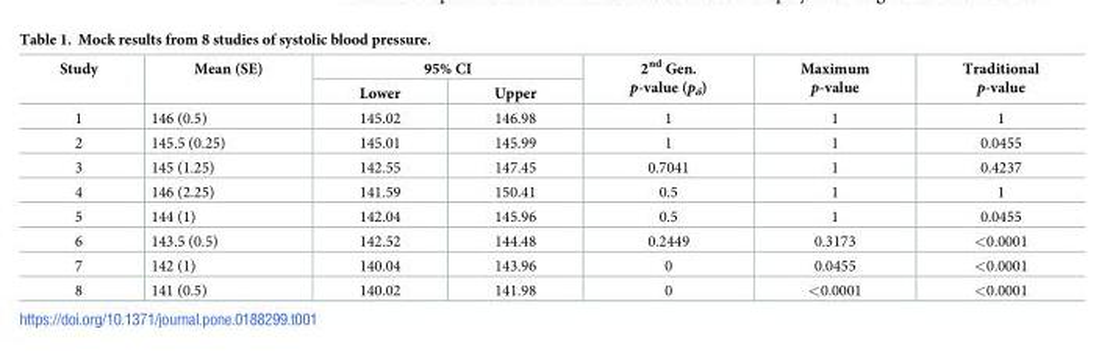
<table><thead><tr><td rowspan="2">Study</td><td rowspan="2">Mean (SE)</td><td colspan="2">95% CI</td><td rowspan="2">2<sup>nd</sup> Gen. p-value (p<sub>δ</sub>)</td><td rowspan="2">Maximum p-value</td><td rowspan="2">Traditional p-value</td></tr><tr><td>Lower</td><td>Upper</td></tr></thead><tbody><tr><td>1</td><td>146 (0.5)</td><td>145.02</td><td>146.98</td><td>1</td><td>1</td><td>1</td></tr><tr><td>2</td><td>145.5 (0.25)</td><td>145.01</td><td>145.99</td><td>1</td><td>1</td><td>0.0455</td></tr><tr><td>3</td><td>145 (1.25)</td><td>142.55</td><td>147.45</td><td>0.7041</td><td>1</td><td>0.4237</td></tr><tr><td>4</td><td>146 (2.25)</td><td>141.59</td><td>150.41</td><td>0.5</td><td>1</td><td>1</td></tr><tr><td>5</td><td>144 (1)</td><td>142.04</td><td>145.96</td><td>0.5</td><td>1</td><td>0.0455</td></tr><tr><td>6</td><td>143.5 (0.5)</td><td>142.52</td><td>144.48</td><td>0.2449</td><td>0.3173</td><td>&lt;0.0001</td></tr><tr><td>7</td><td>142 (1)</td><td>140.04</td><td>143.96</td><td>0</td><td>0.0455</td><td>&lt;0.0001</td></tr><tr><td>8</td><td>141 (0.5)</td><td>140.02</td><td>141.98</td><td>0</td><td>&lt;0.0001</td><td>&lt;0.0001</td></tr></tbody></table>